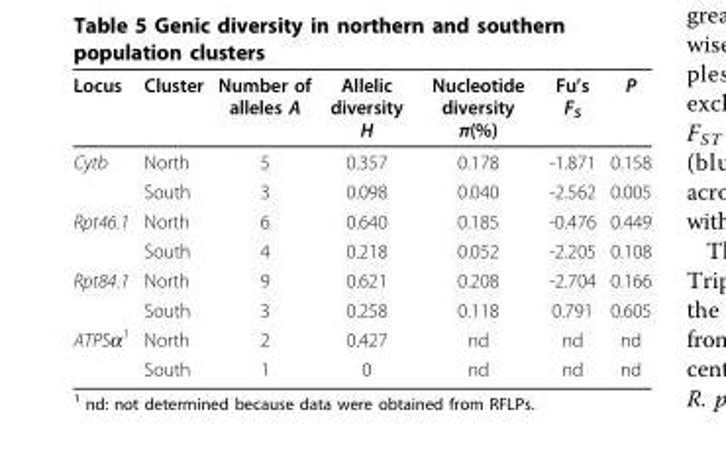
<table><thead><tr><td>Locus</td><td>Cluster</td><td>Number of alleles A</td><td>Allelic diversity H</td><td>Nucleotide diversity π(%)</td><td>Fu’s F<sub>S</sub></td><td>P</td></tr></thead><tbody><tr><td rowspan="2">Cytb</td><td>North</td><td>5</td><td>0.357</td><td>0.178</td><td>-1.871</td><td>0.158</td></tr><tr><td>South</td><td>3</td><td>0.098</td><td>0.040</td><td>-2.562</td><td>0.005</td></tr><tr><td rowspan="2">Rpt46.1</td><td>North</td><td>6</td><td>0.640</td><td>0.185</td><td>-0.476</td><td>0.449</td></tr><tr><td>South</td><td>4</td><td>0.218</td><td>0.052</td><td>-2.205</td><td>0.108</td></tr><tr><td rowspan="2">Rpt84.1</td><td>North</td><td>9</td><td>0.621</td><td>0.208</td><td>-2.704</td><td>0.166</td></tr><tr><td>South</td><td>3</td><td>0.258</td><td>0.118</td><td>0.791</td><td>0.605</td></tr><tr><td rowspan="2">ATPSα<sup>1</sup></td><td>North</td><td>2</td><td>0.427</td><td>nd</td><td>nd</td><td>nd</td></tr><tr><td>South</td><td>1</td><td>0</td><td>nd</td><td>nd</td><td>nd</td></tr></tbody></table>